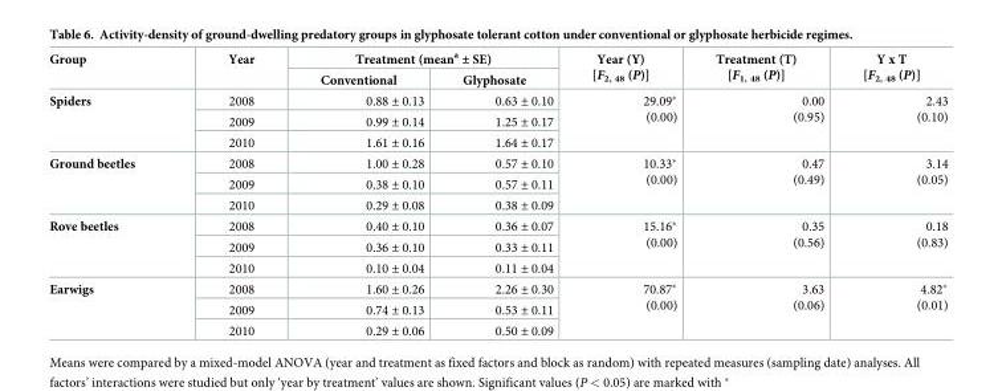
<table><thead><tr><td rowspan="2">Group</td><td rowspan="2">Year</td><td colspan="2">Treatment (mean<sup>a</sup> ± SE)</td><td rowspan="2">Year (Y) [F<sub>2, 48</sub> (P)]</td><td rowspan="2">Treatment (T) [F<sub>1, 48</sub> (P)]</td><td rowspan="2">Y x T [F<sub>2, 48</sub> (P)]</td></tr><tr><td>Conventional</td><td>Glyphosate</td></tr></thead><tbody><tr><td rowspan="3">Spiders</td><td>2008</td><td>0.88 ± 0.13</td><td>0.63 ± 0.10</td><td rowspan="3">29.09* (0.00)</td><td rowspan="3">0.00 (0.95)</td><td rowspan="3">2.43 (0.10)</td></tr><tr><td>2009</td><td>0.99 ± 0.14</td><td>1.25 ± 0.17</td></tr><tr><td>2010</td><td>1.61 ± 0.16</td><td>1.64 ± 0.17</td></tr><tr><td rowspan="3">Ground beetles</td><td>2008</td><td>1.00 ± 0.28</td><td>0.57 ± 0.10</td><td rowspan="3">10.33* (0.00)</td><td rowspan="3">0.47 (0.49)</td><td rowspan="3">3.14 (0.05)</td></tr><tr><td>2009</td><td>0.38 ± 0.10</td><td>0.57 ± 0.11</td></tr><tr><td>2010</td><td>0.29 ± 0.08</td><td>0.38 ± 0.09</td></tr><tr><td rowspan="3">Rove beetles</td><td>2008</td><td>0.40 ± 0.10</td><td>0.36 ± 0.07</td><td rowspan="3">15.16* (0.00)</td><td rowspan="3">0.35 (0.56)</td><td rowspan="3">0.18 (0.83)</td></tr><tr><td>2009</td><td>0.36 ± 0.10</td><td>0.33 ± 0.11</td></tr><tr><td>2010</td><td>0.10 ± 0.04</td><td>0.11 ± 0.04</td></tr><tr><td rowspan="3">Earwigs</td><td>2008</td><td>1.60 ± 0.26</td><td>2.26 ± 0.30</td><td rowspan="3">70.87* (0.00)</td><td rowspan="3">3.63 (0.06)</td><td rowspan="3">4.82* (0.01)</td></tr><tr><td>2009</td><td>0.74 ± 0.13</td><td>0.53 ± 0.11</td></tr><tr><td>2010</td><td>0.29 ± 0.06</td><td>0.50 ± 0.09</td></tr></tbody></table>